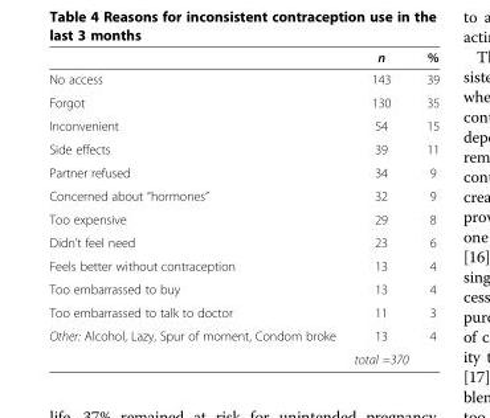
<table><thead><tr><td></td><td>n</td><td>%</td></tr></thead><tbody><tr><td>No access</td><td>143</td><td>39</td></tr><tr><td>Forgot</td><td>130</td><td>35</td></tr><tr><td>Inconvenient</td><td>54</td><td>15</td></tr><tr><td>Side effects</td><td>39</td><td>11</td></tr><tr><td>Partner refused</td><td>34</td><td>9</td></tr><tr><td>Concerned about “hormones”</td><td>32</td><td>9</td></tr><tr><td>Too expensive</td><td>29</td><td>8</td></tr><tr><td>Didn’t feel need</td><td>23</td><td>6</td></tr><tr><td>Feels better without contraception</td><td>13</td><td>4</td></tr><tr><td>Too embarrassed to buy</td><td>13</td><td>4</td></tr><tr><td>Too embarrassed to talk to doctor</td><td>11</td><td>3</td></tr><tr><td rowspan="2">Other: Alcohol, Lazy, Spur of moment, Condom broke</td><td>13</td><td>4</td></tr><tr><td>total =370</td><td></td></tr></tbody></table>